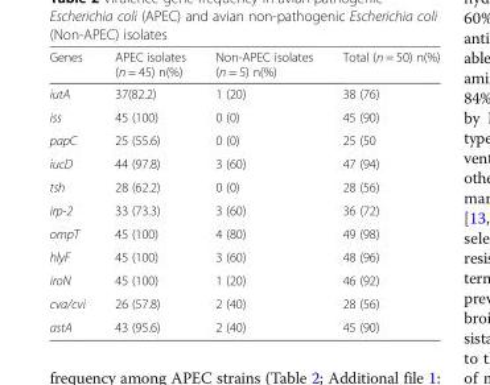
<table><thead><tr><td>Genes</td><td>APEC isolates (n = 45) n(%)</td><td>Non-APEC isolates (n = 5) n(%)</td><td>Total (n = 50) n(%)</td></tr></thead><tbody><tr><td>iutA</td><td>37(82.2)</td><td>1 (20)</td><td>38 (76)</td></tr><tr><td>iss</td><td>45 (100)</td><td>0 (0)</td><td>45 (90)</td></tr><tr><td>papC</td><td>25 (55.6)</td><td>0 (0)</td><td>25 (50</td></tr><tr><td>iucD</td><td>44 (97.8)</td><td>3 (60)</td><td>47 (94)</td></tr><tr><td>tsh</td><td>28 (62.2)</td><td>0 (0)</td><td>28 (56)</td></tr><tr><td>irp-2</td><td>33 (73.3)</td><td>3 (60)</td><td>36 (72)</td></tr><tr><td>ompT</td><td>45 (100)</td><td>4 (80)</td><td>49 (98)</td></tr><tr><td>hlyF</td><td>45 (100)</td><td>3 (60)</td><td>48 (96)</td></tr><tr><td>iroN</td><td>45 (100)</td><td>1 (20)</td><td>46 (92)</td></tr><tr><td>cva/cvi</td><td>26 (57.8)</td><td>2 (40)</td><td>28 (56)</td></tr><tr><td>astA</td><td>43 (95.6)</td><td>2 (40)</td><td>45 (90)</td></tr></tbody></table>